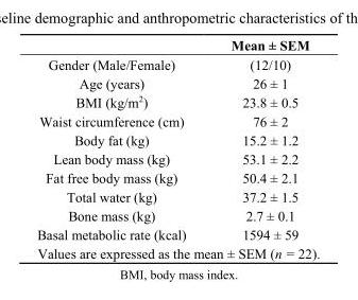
<table><thead><tr><td></td><td>Mean ± SEM</td></tr></thead><tbody><tr><td>Gender (Male/Female)</td><td>(12/10)</td></tr><tr><td>Age (years)</td><td>26 ± 1</td></tr><tr><td>BMI (kg/m<sup>2</sup>)</td><td>23.8 ± 0.5</td></tr><tr><td>Waist circumference (cm)</td><td>76 ± 2</td></tr><tr><td>Body fat (kg)</td><td>15.2 ± 1.2</td></tr><tr><td>Lean body mass (kg)</td><td>53.1 ± 2.2</td></tr><tr><td>Fat free body mass (kg)</td><td>50.4 ± 2.1</td></tr><tr><td>Total water (kg)</td><td>37.2 ± 1.5</td></tr><tr><td>Bone mass (kg)</td><td>2.7 ± 0.1</td></tr><tr><td>Basal metabolic rate (kcal)</td><td>1594 ± 59</td></tr><tr><td colspan="2">Values are expressed as the mean ± SEM (n = 22).</td></tr></tbody></table>